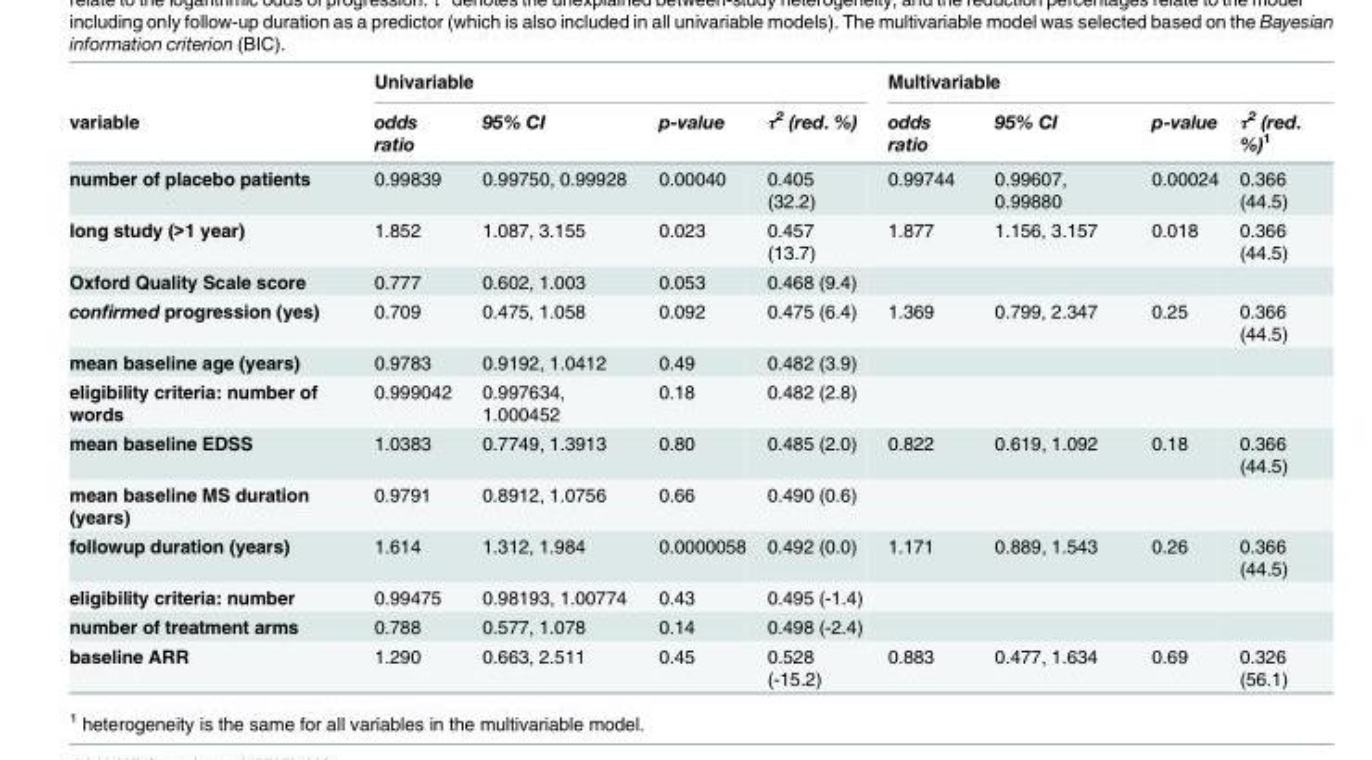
<table><thead><tr><td rowspan="2">variable</td><td colspan="4">Univariable</td><td colspan="4">Multivariable</td></tr><tr><td>odds ratio</td><td>95% CI</td><td>p-value</td><td>τ<sup>2</sup> (red. %)</td><td>odds ratio</td><td>95% CI</td><td>p-value</td><td>τ<sup>2</sup> (red. %)<sup>1</sup></td></tr></thead><tbody><tr><td>number of placebo patients</td><td>0.99839</td><td>0.99750, 0.99928</td><td>0.00040</td><td>0.405 (32.2)</td><td>0.99744</td><td>0.99607, 0.99880</td><td>0.00024</td><td>0.366 (44.5)</td></tr><tr><td>long study (&gt;1 year)</td><td>1.852</td><td>1.087, 3.155</td><td>0.023</td><td>0.457 (13.7)</td><td>1.877</td><td>1.156, 3.157</td><td>0.018</td><td>0.366 (44.5)</td></tr><tr><td>Oxford Quality Scale score</td><td>0.777</td><td>0.602, 1.003</td><td>0.053</td><td>0.468 (9.4)</td><td></td><td></td><td></td><td></td></tr><tr><td>confirmed progression (yes)</td><td>0.709</td><td>0.475, 1.058</td><td>0.092</td><td>0.475 (6.4)</td><td>1.369</td><td>0.799, 2.347</td><td>0.25</td><td>0.366 (44.5)</td></tr><tr><td>mean baseline age (years)</td><td>0.9783</td><td>0.9192, 1.0412</td><td>0.49</td><td>0.482 (3.9)</td><td></td><td></td><td></td><td></td></tr><tr><td>eligibility criteria: number of words</td><td>0.999042</td><td>0.997634, 1.000452</td><td>0.18</td><td>0.482 (2.8)</td><td></td><td></td><td></td><td></td></tr><tr><td>mean baseline EDSS</td><td>1.0383</td><td>0.7749, 1.3913</td><td>0.80</td><td>0.485 (2.0)</td><td>0.822</td><td>0.619, 1.092</td><td>0.18</td><td>0.366 (44.5)</td></tr><tr><td>mean baseline MS duration (years)</td><td>0.9791</td><td>0.8912, 1.0756</td><td>0.66</td><td>0.490 (0.6)</td><td></td><td></td><td></td><td></td></tr><tr><td>followup duration (years)</td><td>1.614</td><td>1.312, 1.984</td><td>0.0000058</td><td>0.492 (0.0)</td><td>1.171</td><td>0.889, 1.543</td><td>0.26</td><td>0.366 (44.5)</td></tr><tr><td>eligibility criteria: number</td><td>0.99475</td><td>0.98193, 1.00774</td><td>0.43</td><td>0.495 (-1.4)</td><td></td><td></td><td></td><td></td></tr><tr><td>number of treatment arms</td><td>0.788</td><td>0.577, 1.078</td><td>0.14</td><td>0.498 (-2.4)</td><td></td><td></td><td></td><td></td></tr><tr><td>baseline ARR</td><td>1.290</td><td>0.663, 2.511</td><td>0.45</td><td>0.528 (-15.2)</td><td>0.883</td><td>0.477, 1.634</td><td>0.69</td><td>0.326 (56.1)</td></tr></tbody></table>